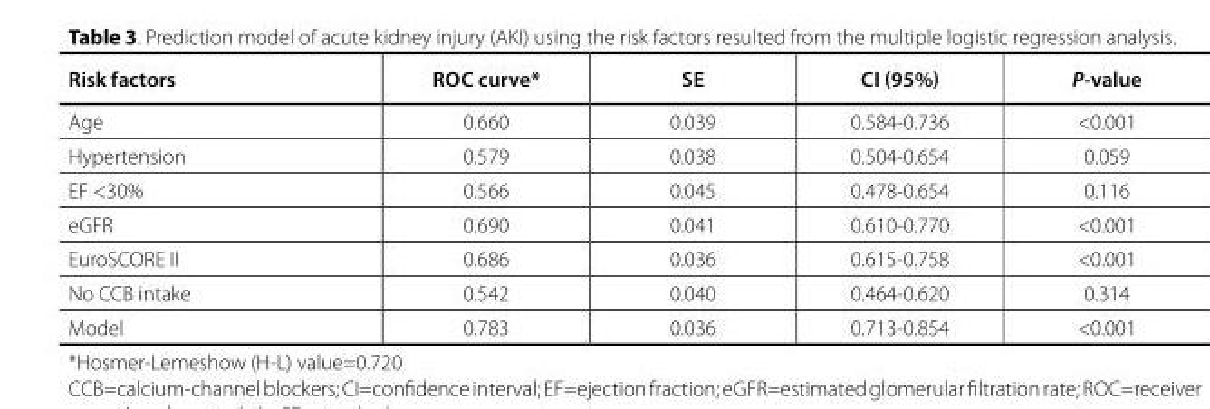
<table><thead><tr><td>Risk factors</td><td>ROC curve*</td><td>SE</td><td>CI (95%)</td><td>P-value</td></tr></thead><tbody><tr><td>Age</td><td>0.660</td><td>0.039</td><td>0.584-0.736</td><td>&lt;0.001</td></tr><tr><td>Hypertension</td><td>0.579</td><td>0.038</td><td>0.504-0.654</td><td>0.059</td></tr><tr><td>EF &lt;30%</td><td>0.566</td><td>0.045</td><td>0.478-0.654</td><td>0.116</td></tr><tr><td>eGFR</td><td>0.690</td><td>0.041</td><td>0.610-0.770</td><td>&lt;0.001</td></tr><tr><td>EuroSCORE II</td><td>0.686</td><td>0.036</td><td>0.615-0.758</td><td>&lt;0.001</td></tr><tr><td>No CCB intake</td><td>0.542</td><td>0.040</td><td>0.464-0.620</td><td>0.314</td></tr><tr><td>Model</td><td>0.783</td><td>0.036</td><td>0.713-0.854</td><td>&lt;0.001</td></tr></tbody></table>